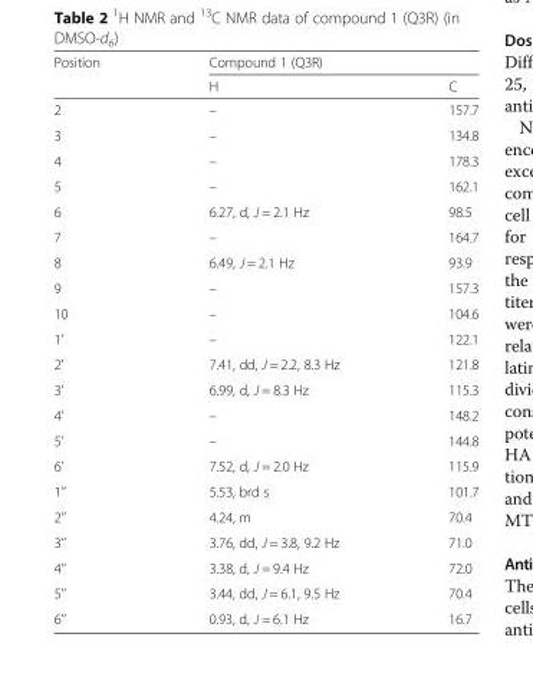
<table><thead><tr><td rowspan="2">Position</td><td colspan="2">Compound 1 (Q3R)</td></tr><tr><td>H</td><td>C</td></tr></thead><tbody><tr><td>2</td><td>–</td><td>157.7</td></tr><tr><td>3</td><td>–</td><td>134.8</td></tr><tr><td>4</td><td>–</td><td>178.3</td></tr><tr><td>5</td><td>–</td><td>162.1</td></tr><tr><td>6</td><td>6.27, d, J = 2.1 Hz</td><td>98.5</td></tr><tr><td>7</td><td>–</td><td>164.7</td></tr><tr><td>8</td><td>6.49, J = 2.1 Hz</td><td>93.9</td></tr><tr><td>9</td><td>–</td><td>157.3</td></tr><tr><td>10</td><td>–</td><td>104.6</td></tr><tr><td>1’</td><td>–</td><td>122.1</td></tr><tr><td>2’</td><td>7.41, dd, J = 2.2, 8.3 Hz</td><td>121.8</td></tr><tr><td>3’</td><td>6.99, d, J = 8.3 Hz</td><td>115.3</td></tr><tr><td>4’</td><td>–</td><td>148.2</td></tr><tr><td>5’</td><td>–</td><td>144.8</td></tr><tr><td>6’</td><td>7.52, d, J = 2.0 Hz</td><td>115.9</td></tr><tr><td>1’’</td><td>5.53, brd s</td><td>101.7</td></tr><tr><td>2’’</td><td>4.24, m</td><td>70.4</td></tr><tr><td>3’’</td><td>3.76, dd, J = 3.8, 9.2 Hz</td><td>71.0</td></tr><tr><td>4’’</td><td>3.38, d, J = 9.4 Hz</td><td>72.0</td></tr><tr><td>5’’</td><td>3.44, dd, J = 6.1, 9.5 Hz</td><td>70.4</td></tr><tr><td>6’’</td><td>0.93, d, J = 6.1 Hz</td><td>16.7</td></tr></tbody></table>